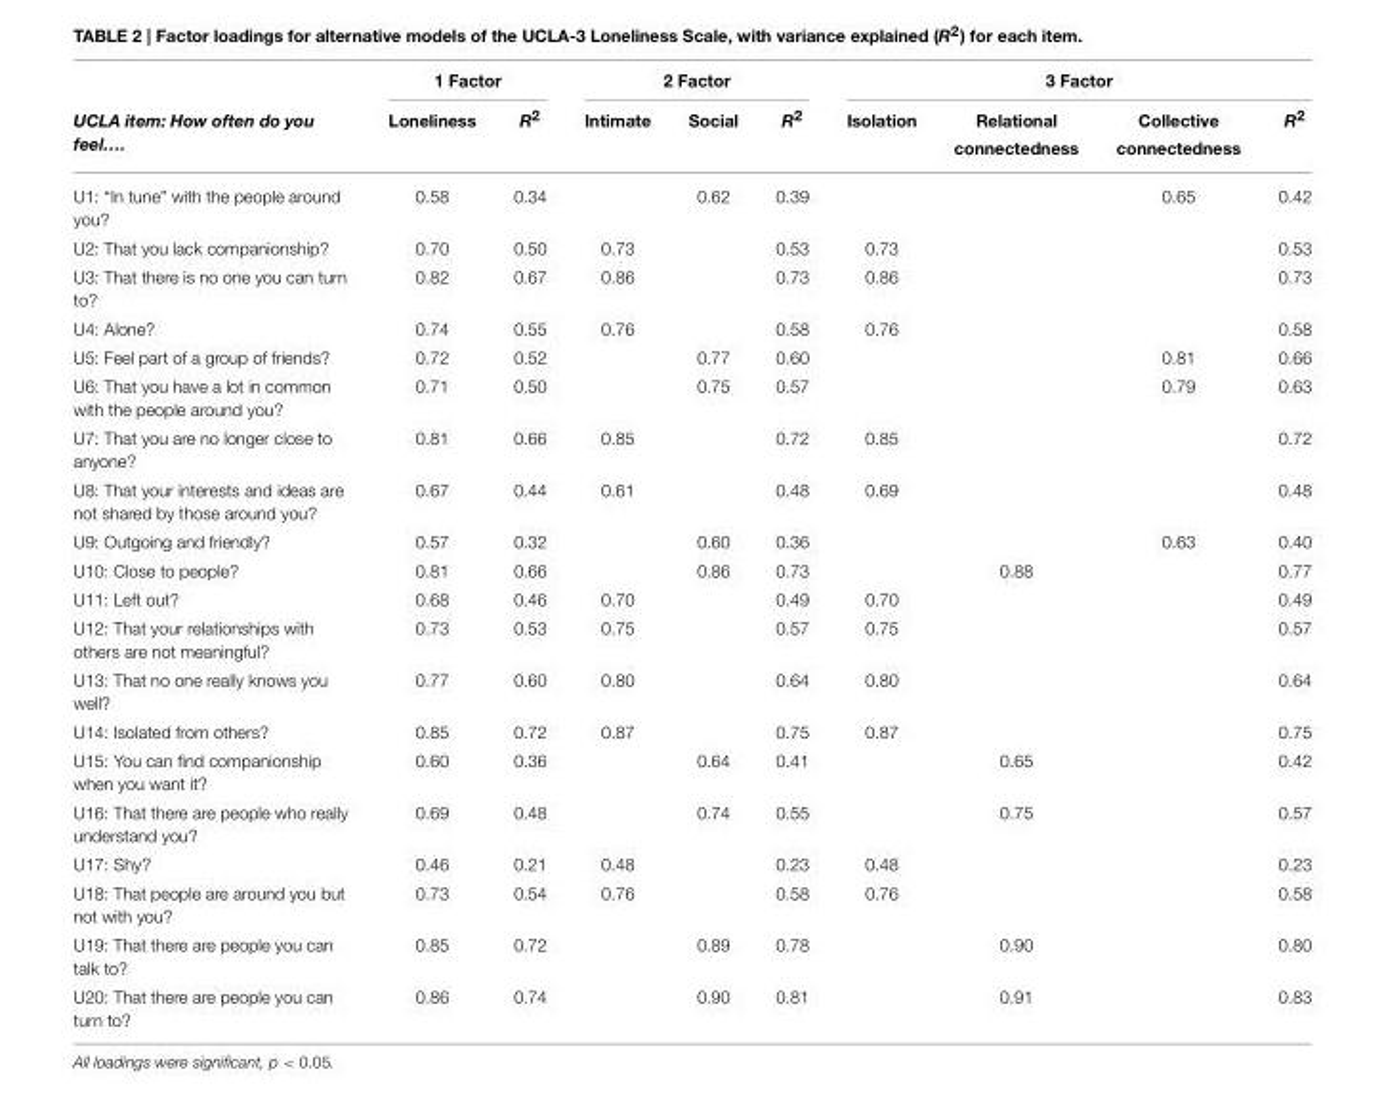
<table><thead><tr><td rowspan="2">UCLA item: How often do you feel….</td><td colspan="2">1 Factor</td><td colspan="3">2 Factor</td><td colspan="4">3 Factor</td></tr><tr><td>Loneliness</td><td>R<sup>2</sup></td><td>Intimate</td><td>Social</td><td>R<sup>2</sup></td><td>Isolation</td><td>Relational connectedness</td><td>Collective connectedness</td><td>R<sup>2</sup></td></tr></thead><tbody><tr><td>U1: “In tune” with the people around you?</td><td>0.58</td><td>0.34</td><td></td><td>0.62</td><td>0.39</td><td></td><td></td><td>0.65</td><td>0.42</td></tr><tr><td>U2: That you lack companionship?</td><td>0.70</td><td>0.50</td><td>0.73</td><td></td><td>0.53</td><td>0.73</td><td></td><td></td><td>0.53</td></tr><tr><td>U3: That there is no one you can turn to?</td><td>0.82</td><td>0.67</td><td>0.86</td><td></td><td>0.73</td><td>0.86</td><td></td><td></td><td>0.73</td></tr><tr><td>U4: Alone?</td><td>0.74</td><td>0.55</td><td>0.76</td><td></td><td>0.58</td><td>0.76</td><td></td><td></td><td>0.58</td></tr><tr><td>U5: Feel part of a group of friends?</td><td>0.72</td><td>0.52</td><td></td><td>0.77</td><td>0.60</td><td></td><td></td><td>0.81</td><td>0.66</td></tr><tr><td>U6: That you have a lot in common with the people around you?</td><td>0.71</td><td>0.50</td><td></td><td>0.75</td><td>0.57</td><td></td><td></td><td>0.79</td><td>0.63</td></tr><tr><td>U7: That you are no longer close to anyone?</td><td>0.81</td><td>0.66</td><td>0.85</td><td></td><td>0.72</td><td>0.85</td><td></td><td></td><td>0.72</td></tr><tr><td>U8: That your interests and ideas are not shared by those around you?</td><td>0.67</td><td>0.44</td><td>0.61</td><td></td><td>0.48</td><td>0.69</td><td></td><td></td><td>0.48</td></tr><tr><td>U9: Outgoing and friendly?</td><td>0.57</td><td>0.32</td><td></td><td>0.60</td><td>0.36</td><td></td><td></td><td>0.63</td><td>0.40</td></tr><tr><td>U10: Close to people?</td><td>0.81</td><td>0.66</td><td></td><td>0.86</td><td>0.73</td><td></td><td>0.88</td><td></td><td>0.77</td></tr><tr><td>U11: Left out?</td><td>0.68</td><td>0.46</td><td>0.70</td><td></td><td>0.49</td><td>0.70</td><td></td><td></td><td>0.49</td></tr><tr><td>U12: That your relationships with others are not meaningful?</td><td>0.73</td><td>0.53</td><td>0.75</td><td></td><td>0.57</td><td>0.75</td><td></td><td></td><td>0.57</td></tr><tr><td>U13: That no one really knows you well?</td><td>0.77</td><td>0.60</td><td>0.80</td><td></td><td>0.64</td><td>0.80</td><td></td><td></td><td>0.64</td></tr><tr><td>U14: Isolated from others?</td><td>0.85</td><td>0.72</td><td>0.87</td><td></td><td>0.75</td><td>0.87</td><td></td><td></td><td>0.75</td></tr><tr><td>U15: You can find companionship when you want it?</td><td>0.60</td><td>0.36</td><td></td><td>0.64</td><td>0.41</td><td></td><td>0.65</td><td></td><td>0.42</td></tr><tr><td>U16: That there are people who really understand you?</td><td>0.69</td><td>0.48</td><td></td><td>0.74</td><td>0.55</td><td></td><td>0.75</td><td></td><td>0.57</td></tr><tr><td>U17: Shy?</td><td>0.46</td><td>0.21</td><td>0.48</td><td></td><td>0.23</td><td>0.48</td><td></td><td></td><td>0.23</td></tr><tr><td>U18: That people are around you but not with you?</td><td>0.73</td><td>0.54</td><td>0.76</td><td></td><td>0.58</td><td>0.76</td><td></td><td></td><td>0.58</td></tr><tr><td>U19: That there are people you can talk to?</td><td>0.85</td><td>0.72</td><td></td><td>0.89</td><td>0.78</td><td></td><td>0.90</td><td></td><td>0.80</td></tr><tr><td>U20: That there are people you can turn to?</td><td>0.86</td><td>0.74</td><td></td><td>0.90</td><td>0.81</td><td></td><td>0.91</td><td></td><td>0.83</td></tr></tbody></table>